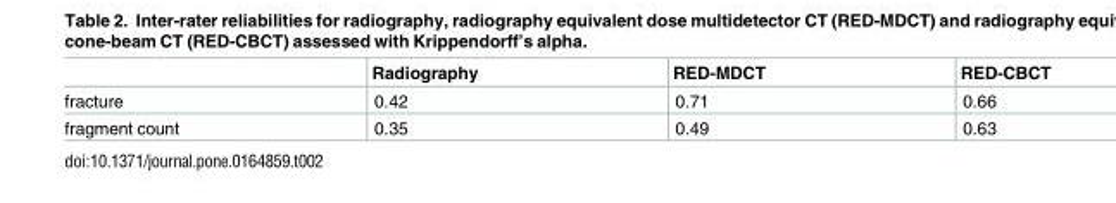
<table><thead><tr><td></td><td>Radiography</td><td>RED-MDCT</td><td>RED-CBCT</td></tr></thead><tbody><tr><td>fracture</td><td>0.42</td><td>0.71</td><td>0.66</td></tr><tr><td>fragment count</td><td>0.35</td><td>0.49</td><td>0.63</td></tr></tbody></table>